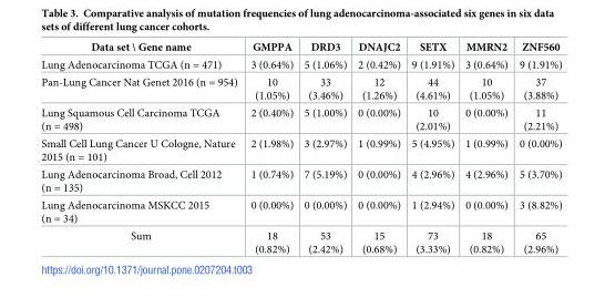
<table><thead><tr><td>Data set \ Gene name</td><td>GMPPA</td><td>DRD3</td><td>DNAJC2</td><td>SETX</td><td>MMRN2</td><td>ZNF560</td></tr></thead><tbody><tr><td>Lung Adenocarcinoma TCGA (n = 471)</td><td>3 (0.64%)</td><td>5 (1.06%)</td><td>2 (0.42%)</td><td>9 (1.91%)</td><td>3 (0.64%)</td><td>9 (1.91%)</td></tr><tr><td>Pan-Lung Cancer Nat Genet 2016 (n = 954)</td><td>10 (1.05%)</td><td>33 (3.46%)</td><td>12 (1.26%)</td><td>44 (4.61%)</td><td>10 (1.05%)</td><td>37 (3.88%)</td></tr><tr><td>Lung Squamous Cell Carcinoma TCGA (n = 498)</td><td>2 (0.40%)</td><td>5 (1.00%)</td><td>0 (0.00%)</td><td>10 (2.01%)</td><td>0 (0.00%)</td><td>11 (2.21%)</td></tr><tr><td>Small Cell Lung Cancer U Cologne, Nature 2015 (n = 101)</td><td>2 (1.98%)</td><td>3 (2.97%)</td><td>1 (0.99%)</td><td>5 (4.95%)</td><td>1 (0.99%)</td><td>0 (0.00%)</td></tr><tr><td>Lung Adenocarcinoma Broad, Cell 2012 (n = 135)</td><td>1 (0.74%)</td><td>7 (5.19%)</td><td>0 (0.00%)</td><td>4 (2.96%)</td><td>4 (2.96%)</td><td>5 (3.70%)</td></tr><tr><td>Lung Adenocarcinoma MSKCC 2015 (n = 34)</td><td>0 (0.00%)</td><td>0 (0.00%)</td><td>0 (0.00%)</td><td>1 (2.94%)</td><td>0 (0.00%)</td><td>3 (8.82%)</td></tr><tr><td>Sum</td><td>18 (0.82%)</td><td>53 (2.42%)</td><td>15 (0.68%)</td><td>73 (3.33%)</td><td>18 (0.82%)</td><td>65 (2.96%)</td></tr></tbody></table>